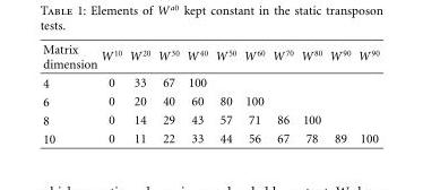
<table><thead><tr><td>Matrix dimension</td><td>W<sup>10</sup></td><td>W<sup>20</sup></td><td>W<sup>30</sup></td><td>W<sup>40</sup></td><td>W<sup>50</sup></td><td>W<sup>60</sup></td><td>W<sup>70</sup></td><td>W<sup>80</sup></td><td>W<sup>90</sup></td><td>W<sup>90</sup></td></tr></thead><tbody><tr><td>4</td><td>0</td><td>33</td><td>67</td><td>100</td><td></td><td></td><td></td><td></td><td></td><td></td></tr><tr><td>6</td><td>0</td><td>20</td><td>40</td><td>60</td><td>80</td><td>100</td><td></td><td></td><td></td><td></td></tr><tr><td>8</td><td>0</td><td>14</td><td>29</td><td>43</td><td>57</td><td>71</td><td>86</td><td>100</td><td></td><td></td></tr><tr><td>10</td><td>0</td><td>11</td><td>22</td><td>33</td><td>44</td><td>56</td><td>67</td><td>78</td><td>89</td><td>100</td></tr></tbody></table>